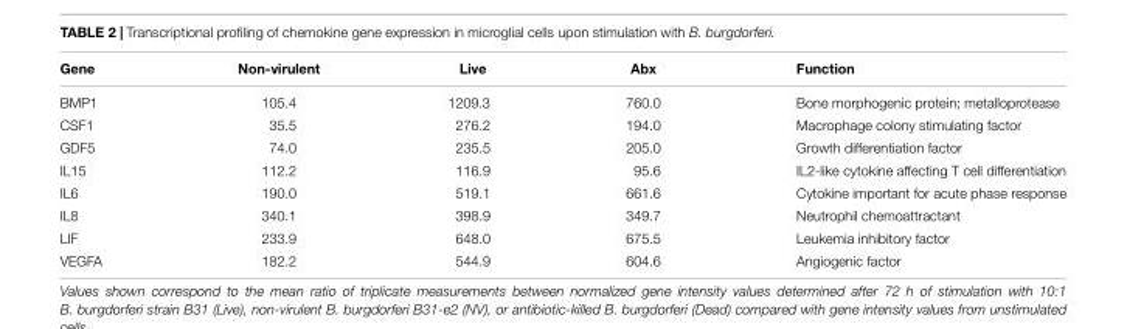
<table><thead><tr><td>Gene</td><td>Non-virulent</td><td>Live</td><td>Abx</td><td>Function</td></tr></thead><tbody><tr><td>BMP1</td><td>105.4</td><td>1209.3</td><td>760.0</td><td>Bone morphogenic protein; metalloprotease</td></tr><tr><td>CSF1</td><td>35.5</td><td>276.2</td><td>194.0</td><td>Macrophage colony stimulating factor</td></tr><tr><td>GDF5</td><td>74.0</td><td>235.5</td><td>205.0</td><td>Growth differentiation factor</td></tr><tr><td>IL15</td><td>112.2</td><td>116.9</td><td>95.6</td><td>IL2-like cytokine affecting T cell differentiation</td></tr><tr><td>IL6</td><td>190.0</td><td>519.1</td><td>661.6</td><td>Cytokine important for acute phase response</td></tr><tr><td>IL8</td><td>340.1</td><td>398.9</td><td>349.7</td><td>Neutrophil chemoattractant</td></tr><tr><td>LIF</td><td>233.9</td><td>648.0</td><td>675.5</td><td>Leukemia inhibitory factor</td></tr><tr><td>VEGFA</td><td>182.2</td><td>544.9</td><td>604.6</td><td>Angiogenic factor</td></tr></tbody></table>